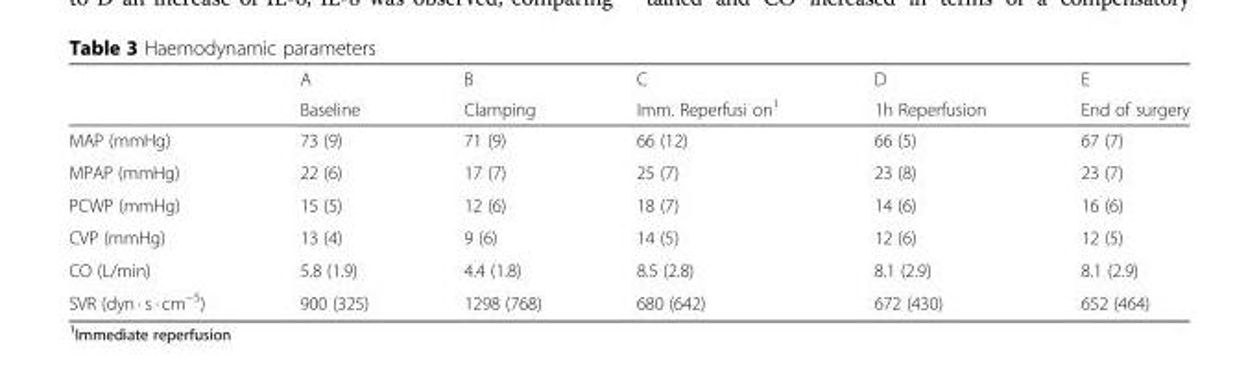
<table><thead><tr><td rowspan="2"></td><td rowspan="2">A Baseline</td><td rowspan="2">B Clamping</td><td rowspan="2">C Imm. Reperfusi on<sup>1</sup></td><td rowspan="2">D 1h Reperfusion</td><td rowspan="2">E End of surgery</td></tr><tr></tr></thead><tbody><tr><td>MAP (mmHg)</td><td>73 (9)</td><td>71 (9)</td><td>66 (12)</td><td>66 (5)</td><td>67 (7)</td></tr><tr><td>MPAP (mmHg)</td><td>22 (6)</td><td>17 (7)</td><td>25 (7)</td><td>23 (8)</td><td>23 (7)</td></tr><tr><td>PCWP (mmHg)</td><td>15 (5)</td><td>12 (6)</td><td>18 (7)</td><td>14 (6)</td><td>16 (6)</td></tr><tr><td>CVP (mmHg)</td><td>13 (4)</td><td>9 (6)</td><td>14 (5)</td><td>12 (6)</td><td>12 (5)</td></tr><tr><td>CO (L/min)</td><td>5.8 (1.9)</td><td>4.4 (1.8)</td><td>8.5 (2.8)</td><td>8.1 (2.9)</td><td>8.1 (2.9)</td></tr><tr><td>SVR (dyn · s · cm<sup>−5</sup>)</td><td>900 (325)</td><td>1298 (768)</td><td>680 (642)</td><td>672 (430)</td><td>652 (464)</td></tr></tbody></table>